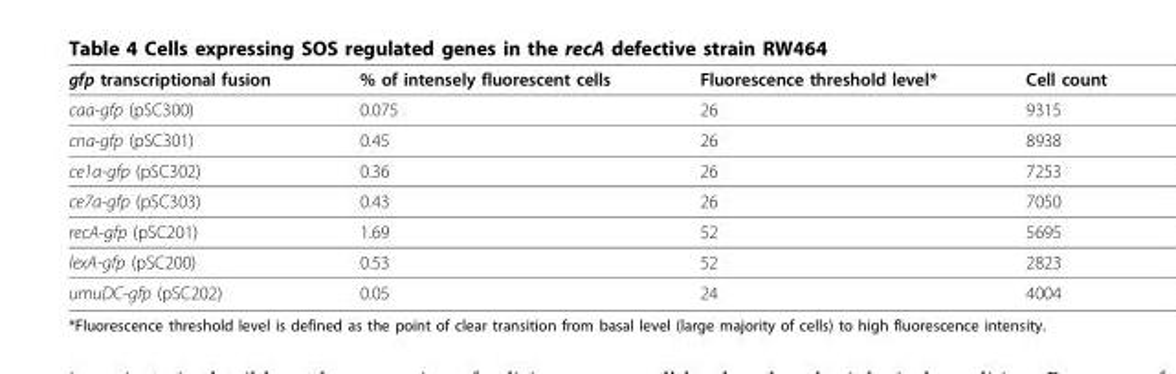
<table><thead><tr><td>gfp transcriptional fusion</td><td>% of intensely fluorescent cells</td><td>Fluorescence threshold level*</td><td>Cell count</td></tr></thead><tbody><tr><td>caa-gfp (pSC300)</td><td>0.075</td><td>26</td><td>9315</td></tr><tr><td>cna-gfp (pSC301)</td><td>0.45</td><td>26</td><td>8938</td></tr><tr><td>ce1a-gfp (pSC302)</td><td>0.36</td><td>26</td><td>7253</td></tr><tr><td>ce7a-gfp (pSC303)</td><td>0.43</td><td>26</td><td>7050</td></tr><tr><td>recA-gfp (pSC201)</td><td>1.69</td><td>52</td><td>5695</td></tr><tr><td>lexA-gfp (pSC200)</td><td>0.53</td><td>52</td><td>2823</td></tr><tr><td>umuDC-gfp (pSC202)</td><td>0.05</td><td>24</td><td>4004</td></tr></tbody></table>